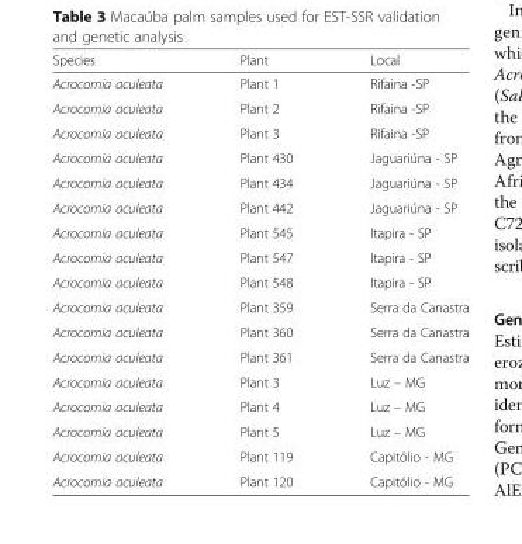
<table><thead><tr><td>Species</td><td>Plant</td><td>Local</td></tr></thead><tbody><tr><td>Acrocomia aculeata</td><td>Plant 1</td><td>Rifaina -SP</td></tr><tr><td>Acrocomia aculeata</td><td>Plant 2</td><td>Rifaina -SP</td></tr><tr><td>Acrocomia aculeata</td><td>Plant 3</td><td>Rifaina -SP</td></tr><tr><td>Acrocomia aculeata</td><td>Plant 430</td><td>Jaguariúna - SP</td></tr><tr><td>Acrocomia aculeata</td><td>Plant 434</td><td>Jaguariúna - SP</td></tr><tr><td>Acrocomia aculeata</td><td>Plant 442</td><td>Jaguariúna - SP</td></tr><tr><td>Acrocomia aculeata</td><td>Plant 545</td><td>Itapira - SP</td></tr><tr><td>Acrocomia aculeata</td><td>Plant 547</td><td>Itapira - SP</td></tr><tr><td>Acrocomia aculeata</td><td>Plant 548</td><td>Itapira - SP</td></tr><tr><td>Acrocomia aculeata</td><td>Plant 359</td><td>Serra da Canastra</td></tr><tr><td>Acrocomia aculeata</td><td>Plant 360</td><td>Serra da Canastra</td></tr><tr><td>Acrocomia aculeata</td><td>Plant 361</td><td>Serra da Canastra</td></tr><tr><td>Acrocomia aculeata</td><td>Plant 3</td><td>Luz – MG</td></tr><tr><td>Acrocomia aculeata</td><td>Plant 4</td><td>Luz – MG</td></tr><tr><td>Acrocomia aculeata</td><td>Plant 5</td><td>Luz – MG</td></tr><tr><td>Acrocomia aculeata</td><td>Plant 119</td><td>Capitólio - MG</td></tr><tr><td>Acrocomia aculeata</td><td>Plant 120</td><td>Capitólio - MG</td></tr></tbody></table>